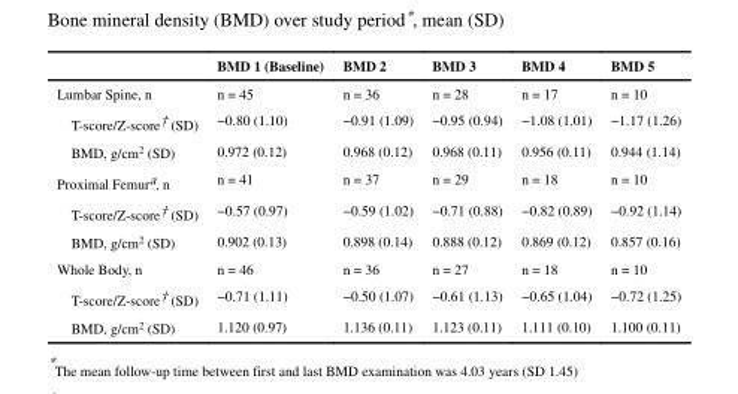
<table><thead><tr><td></td><td>BMD 1 (Baseline)</td><td>BMD 2</td><td>BMD 3</td><td>BMD 4</td><td>BMD 5</td></tr></thead><tbody><tr><td>Lumbar Spine, n</td><td>n = 45</td><td>n = 36</td><td>n = 28</td><td>n = 17</td><td>n = 10</td></tr><tr><td>T-score/Z-score† (SD)</td><td>−0.80 (1.10)</td><td>−0.91 (1.09)</td><td>−0.95 (0.94)</td><td>−1.08 (1.01)</td><td>−1.17 (1.26)</td></tr><tr><td>BMD, g/cm<sup>2</sup> (SD)</td><td>0.972 (0.12)</td><td>0.968 (0.12)</td><td>0.968 (0.11)</td><td>0.956 (0.11)</td><td>0.944 (1.14)</td></tr><tr><td>Proximal Femur<sup>a</sup>, n</td><td>n = 41</td><td>n = 37</td><td>n = 29</td><td>n = 18</td><td>n = 10</td></tr><tr><td>T-score/Z-score† (SD)</td><td>−0.57 (0.97)</td><td>−0.59 (1.02)</td><td>−0.71 (0.88)</td><td>−0.82 (0.89)</td><td>−0.92 (1.14)</td></tr><tr><td>BMD, g/cm<sup>2</sup> (SD)</td><td>0.902 (0.13)</td><td>0.898 (0.14)</td><td>0.888 (0.12)</td><td>0.869 (0.12)</td><td>0.857 (0.16)</td></tr><tr><td>Whole Body, n</td><td>n = 46</td><td>n = 36</td><td>n = 27</td><td>n = 18</td><td>n = 10</td></tr><tr><td>T-score/Z-score† (SD)</td><td>−0.71 (1.11)</td><td>−0.50 (1.07)</td><td>−0.61 (1.13)</td><td>−0.65 (1.04)</td><td>−0.72 (1.25)</td></tr><tr><td>BMD, g/cm<sup>2</sup> (SD)</td><td>1.120 (0.97)</td><td>1.136 (0.11)</td><td>1.123 (0.11)</td><td>1.111 (0.10)</td><td>1.100 (0.11)</td></tr></tbody></table>